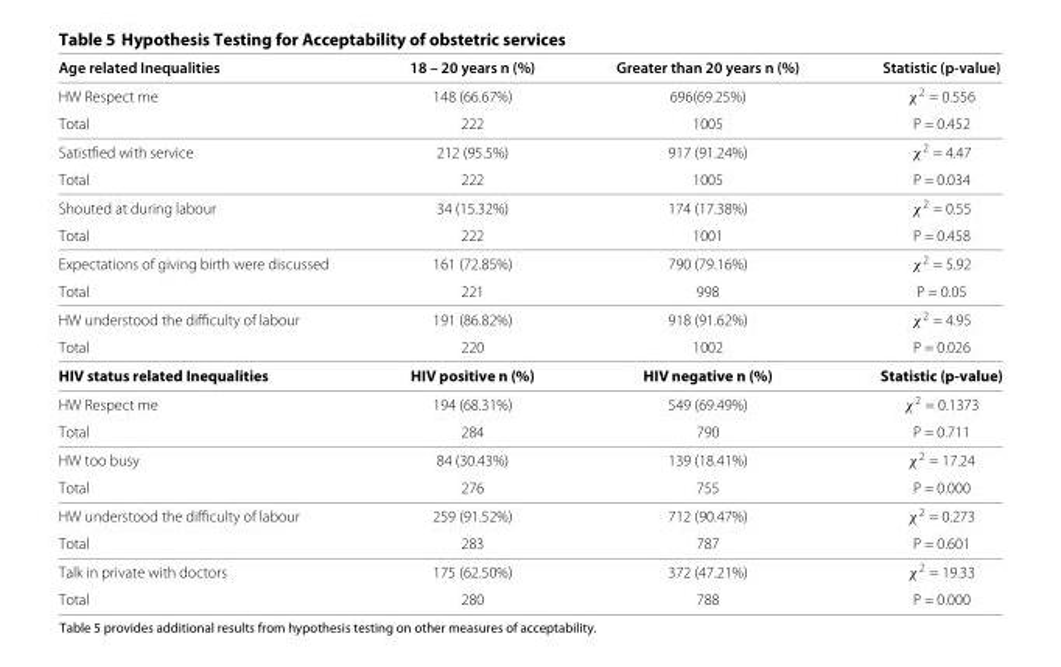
<table><thead><tr><td>Age related Inequalities</td><td>18 – 20 years n (%)</td><td>Greater than 20 years n (%)</td><td>Statistic (p-value)</td></tr></thead><tbody><tr><td>HW Respect me</td><td>148 (66.67%)</td><td>696(69.25%)</td><td>χ<sup>2</sup> = 0.556</td></tr><tr><td>Total</td><td>222</td><td>1005</td><td>P = 0.452</td></tr><tr><td>Satistfied with service</td><td>212 (95.5%)</td><td>917 (91.24%)</td><td>χ<sup>2</sup> = 4.47</td></tr><tr><td>Total</td><td>222</td><td>1005</td><td>P = 0.034</td></tr><tr><td>Shouted at during labour</td><td>34 (15.32%)</td><td>174 (17.38%)</td><td>χ<sup>2</sup> = 0.55</td></tr><tr><td>Total</td><td>222</td><td>1001</td><td>P = 0.458</td></tr><tr><td>Expectations of giving birth were discussed</td><td>161 (72.85%)</td><td>790 (79.16%)</td><td>χ<sup>2</sup> = 5.92</td></tr><tr><td>Total</td><td>221</td><td>998</td><td>P = 0.05</td></tr><tr><td>HW understood the difficulty of labour</td><td>191 (86.82%)</td><td>918 (91.62%)</td><td>χ<sup>2</sup> = 4.95</td></tr><tr><td>Total</td><td>220</td><td>1002</td><td>P = 0.026</td></tr><tr><td>HIV status related Inequalities</td><td>HIV positive n (%)</td><td>HIV negative n (%)</td><td>Statistic (p-value)</td></tr><tr><td>HW Respect me</td><td>194 (68.31%)</td><td>549 (69.49%)</td><td>χ<sup>2</sup> = 0.1373</td></tr><tr><td>Total</td><td>284</td><td>790</td><td>P = 0.711</td></tr><tr><td>HW too busy</td><td>84 (30.43%)</td><td>139 (18.41%)</td><td>χ<sup>2</sup> = 17.24</td></tr><tr><td>Total</td><td>276</td><td>755</td><td>P = 0.000</td></tr><tr><td>HW understood the difficulty of labour</td><td>259 (91.52%)</td><td>712 (90.47%)</td><td>χ<sup>2</sup> = 0.273</td></tr><tr><td>Total</td><td>283</td><td>787</td><td>P = 0.601</td></tr><tr><td>Talk in private with doctors</td><td>175 (62.50%)</td><td>372 (47.21%)</td><td>χ<sup>2</sup> = 19.33</td></tr><tr><td>Total</td><td>280</td><td>788</td><td>P = 0.000</td></tr></tbody></table>